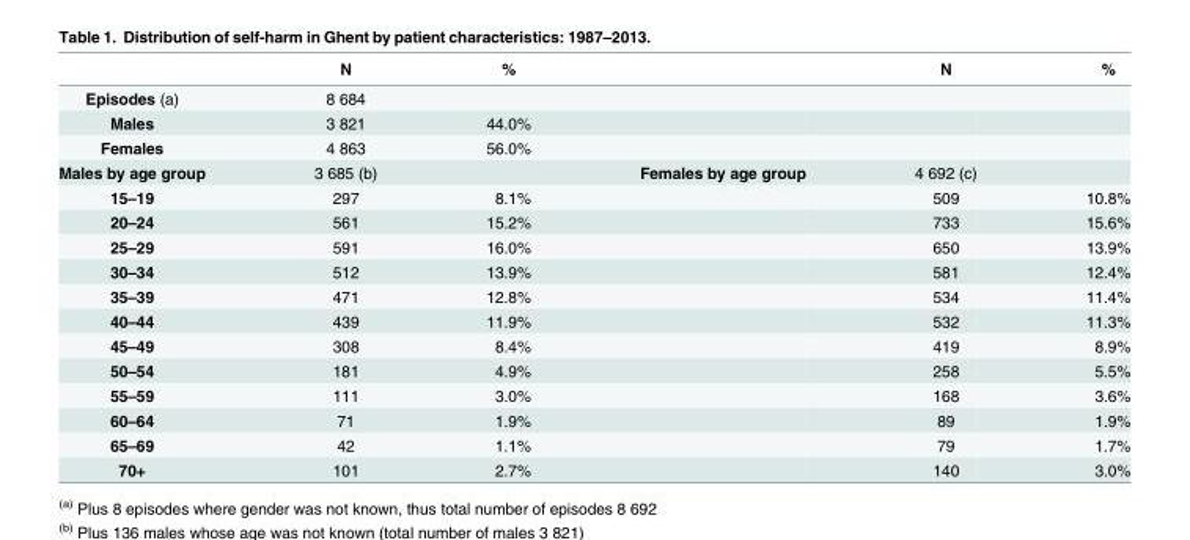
<table><thead><tr><td></td><td>N</td><td>%</td><td></td><td>N</td><td>%</td></tr></thead><tbody><tr><td>Episodes (a)</td><td>8 684</td><td></td><td></td><td></td><td></td></tr><tr><td>Males</td><td>3 821</td><td>44.0%</td><td></td><td></td><td></td></tr><tr><td>Females</td><td>4 863</td><td>56.0%</td><td></td><td></td><td></td></tr><tr><td>Males by age group</td><td>3 685 (b)</td><td></td><td>Females by age group</td><td>4 692 (c)</td><td></td></tr><tr><td>15–19</td><td>297</td><td>8.1%</td><td></td><td>509</td><td>10.8%</td></tr><tr><td>20–24</td><td>561</td><td>15.2%</td><td></td><td>733</td><td>15.6%</td></tr><tr><td>25–29</td><td>591</td><td>16.0%</td><td></td><td>650</td><td>13.9%</td></tr><tr><td>30–34</td><td>512</td><td>13.9%</td><td></td><td>581</td><td>12.4%</td></tr><tr><td>35–39</td><td>471</td><td>12.8%</td><td></td><td>534</td><td>11.4%</td></tr><tr><td>40–44</td><td>439</td><td>11.9%</td><td></td><td>532</td><td>11.3%</td></tr><tr><td>45–49</td><td>308</td><td>8.4%</td><td></td><td>419</td><td>8.9%</td></tr><tr><td>50–54</td><td>181</td><td>4.9%</td><td></td><td>258</td><td>5.5%</td></tr><tr><td>55–59</td><td>111</td><td>3.0%</td><td></td><td>168</td><td>3.6%</td></tr><tr><td>60–64</td><td>71</td><td>1.9%</td><td></td><td>89</td><td>1.9%</td></tr><tr><td>65–69</td><td>42</td><td>1.1%</td><td></td><td>79</td><td>1.7%</td></tr><tr><td>70+</td><td>101</td><td>2.7%</td><td></td><td>140</td><td>3.0%</td></tr></tbody></table>